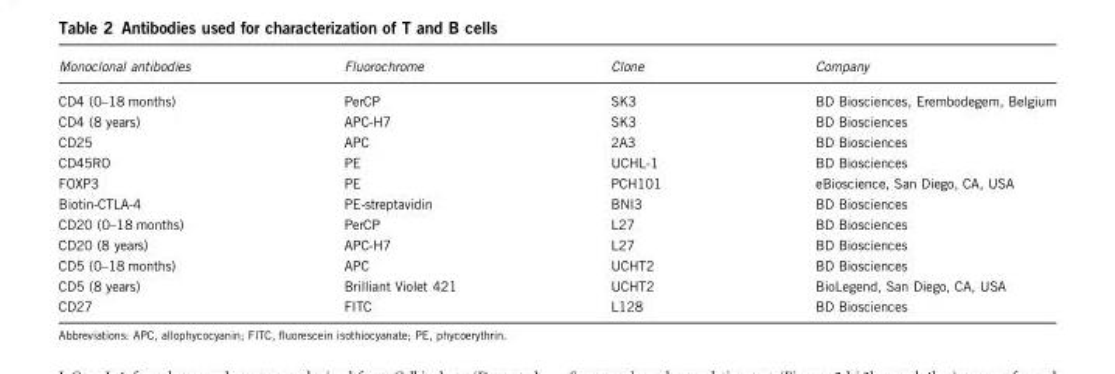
<table><thead><tr><td>Monoclonal antibodies</td><td>Fluorochrome</td><td>Clone</td><td>Company</td></tr></thead><tbody><tr><td>CD4 (0–18 months)</td><td>PerCP</td><td>SK3</td><td>BD Biosciences, Erembodegem, Belgium</td></tr><tr><td>CD4 (8 years)</td><td>APC-H7</td><td>SK3</td><td>BD Biosciences</td></tr><tr><td>CD25</td><td>APC</td><td>2A3</td><td>BD Biosciences</td></tr><tr><td>CD45RO</td><td>PE</td><td>UCHL-1</td><td>BD Biosciences</td></tr><tr><td>FOXP3</td><td>PE</td><td>PCH101</td><td>eBioscience, San Diego, CA, USA</td></tr><tr><td>Biotin-CTLA-4</td><td>PE-streptavidin</td><td>BNI3</td><td>BD Biosciences</td></tr><tr><td>CD20 (0–18 months)</td><td>PerCP</td><td>L27</td><td>BD Biosciences</td></tr><tr><td>CD20 (8 years)</td><td>APC-H7</td><td>L27</td><td>BD Biosciences</td></tr><tr><td>CD5 (0–18 months)</td><td>APC</td><td>UCHT2</td><td>BD Biosciences</td></tr><tr><td>CD5 (8 years)</td><td>Brilliant Violet 421</td><td>UCHT2</td><td>BioLegend, San Diego, CA, USA</td></tr><tr><td>CD27</td><td>FITC</td><td>L128</td><td>BD Biosciences</td></tr></tbody></table>